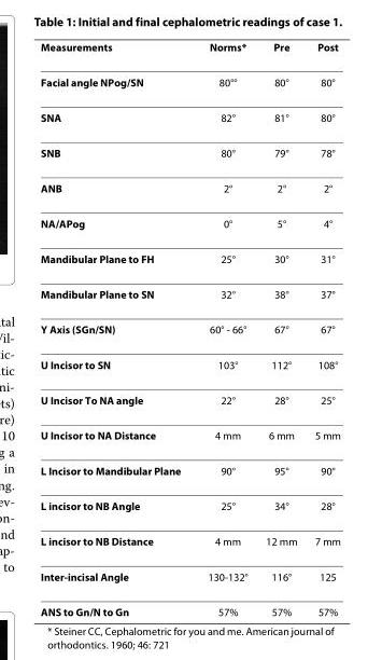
<table><thead><tr><td>Measurements</td><td>Norms*</td><td>Pre</td><td>Post</td></tr></thead><tbody><tr><td>Facial angle NPog/SN</td><td>80°°</td><td>80°</td><td>80°</td></tr><tr><td>SNA</td><td>82°</td><td>81°</td><td>80°</td></tr><tr><td>SNB</td><td>80°</td><td>79°</td><td>78°</td></tr><tr><td>ANB</td><td>2°</td><td>2°</td><td>2°</td></tr><tr><td>NA/APog</td><td>0°</td><td>5°</td><td>4°</td></tr><tr><td>Mandibular Plane to FH</td><td>25°</td><td>30°</td><td>31°</td></tr><tr><td>Mandibular Plane to SN</td><td>32°</td><td>38°</td><td>37°</td></tr><tr><td>Y Axis (SGn/SN)</td><td>60° - 66°</td><td>67°</td><td>67°</td></tr><tr><td>U Incisor to SN</td><td>103°</td><td>112°</td><td>108°</td></tr><tr><td>U Incisor To NA angle</td><td>22°</td><td>28°</td><td>25°</td></tr><tr><td>U Incisor to NA Distance</td><td>4 mm</td><td>6 mm</td><td>5 mm</td></tr><tr><td>L Incisor to Mandibular Plane</td><td>90°</td><td>95°</td><td>90°</td></tr><tr><td>L incisor to NB Angle</td><td>25°</td><td>34°</td><td>28°</td></tr><tr><td>L incisor to NB Distance</td><td>4 mm</td><td>12 mm</td><td>7 mm</td></tr><tr><td>Inter-incisal Angle</td><td>130-132°</td><td>116°</td><td>125</td></tr><tr><td>ANS to Gn/N to Gn</td><td>57%</td><td>57%</td><td>57%</td></tr></tbody></table>